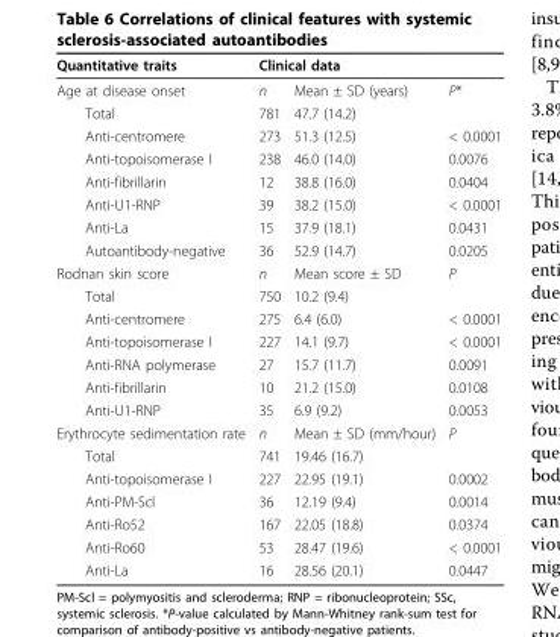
<table><thead><tr><td rowspan="2">Quantitative traits Age at disease onset</td><td colspan="3">Clinical data</td></tr><tr><td>n</td><td>Mean ± SD (years)</td><td>P*</td></tr></thead><tbody><tr><td>Total</td><td>781</td><td>47.7 (14.2)</td><td></td></tr><tr><td>Anti-centromere</td><td>273</td><td>51.3 (12.5)</td><td>&lt; 0.0001</td></tr><tr><td>Anti-topoisomerase I</td><td>238</td><td>46.0 (14.0)</td><td>0.0076</td></tr><tr><td>Anti-fibrillarin</td><td>12</td><td>38.8 (16.0)</td><td>0.0404</td></tr><tr><td>Anti-U1-RNP</td><td>39</td><td>38.2 (15.0)</td><td>&lt; 0.0001</td></tr><tr><td>Anti-La</td><td>15</td><td>37.9 (18.1)</td><td>0.0431</td></tr><tr><td>Autoantibody-negative</td><td>36</td><td>52.9 (14.7)</td><td>0.0205</td></tr><tr><td>Rodnan skin score</td><td>n</td><td>Mean score ± SD</td><td>P</td></tr><tr><td>Total</td><td>750</td><td>10.2 (9.4)</td><td></td></tr><tr><td>Anti-centromere</td><td>275</td><td>6.4 (6.0)</td><td>&lt; 0.0001</td></tr><tr><td>Anti-topoisomerase I</td><td>227</td><td>14.1 (9.7)</td><td>&lt; 0.0001</td></tr><tr><td>Anti-RNA polymerase</td><td>27</td><td>15.7 (11.7)</td><td>0.0091</td></tr><tr><td>Anti-fibrillarin</td><td>10</td><td>21.2 (15.0)</td><td>0.0108</td></tr><tr><td>Anti-U1-RNP</td><td>35</td><td>6.9 (9.2)</td><td>0.0053</td></tr><tr><td>Erythrocyte sedimentation rate</td><td>n</td><td>Mean ± SD (mm/hour)</td><td>P</td></tr><tr><td>Total</td><td>741</td><td>19.46 (16.7)</td><td></td></tr><tr><td>Anti-topoisomerase I</td><td>227</td><td>22.95 (19.1)</td><td>0.0002</td></tr><tr><td>Anti-PM-Scl</td><td>36</td><td>12.19 (9.4)</td><td>0.0014</td></tr><tr><td>Anti-Ro52</td><td>167</td><td>22.05 (18.8)</td><td>0.0374</td></tr><tr><td>Anti-Ro60</td><td>53</td><td>28.47 (19.6)</td><td>&lt; 0.0001</td></tr><tr><td>Anti-La</td><td>16</td><td>28.56 (20.1)</td><td>0.0447</td></tr></tbody></table>